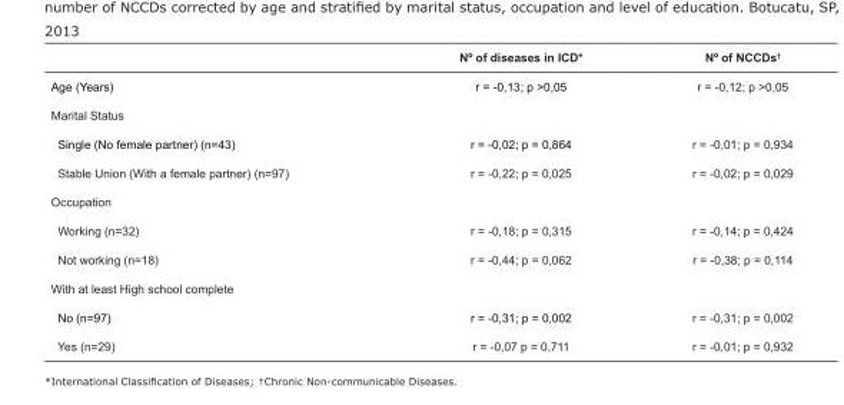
<table><thead><tr><td></td><td>Nº of diseases in ICD*</td><td>Nº of NCCDs<sup>†</sup></td></tr></thead><tbody><tr><td>Age (Years)</td><td>r = -0,13; p &gt;0,05</td><td>r = -0,12; p &gt;0,05</td></tr><tr><td colspan="3">Marital Status</td></tr><tr><td>Single (No female partner) (n=43)</td><td>r = -0,02; p = 0,864</td><td>r = -0,01; p = 0,934</td></tr><tr><td>Stable Union (With a female partner) (n=97)</td><td>r = -0,22; p = 0,025</td><td>r = -0,02; p = 0,029</td></tr><tr><td colspan="3">Occupation</td></tr><tr><td>Working (n=32)</td><td>r = -0,18; p = 0,315</td><td>r = -0,14; p = 0,424</td></tr><tr><td>Not working (n=18)</td><td>r = -0,44; p = 0,062</td><td>r = -0,38; p = 0,114</td></tr><tr><td colspan="3">With at least High school complete</td></tr><tr><td>No (n=97)</td><td>r = -0,31; p = 0,002</td><td>r = -0,31; p = 0,002</td></tr><tr><td>Yes (n=29)</td><td>r = -0,07 p = 0,711</td><td>r = -0,01; p = 0,932</td></tr></tbody></table>